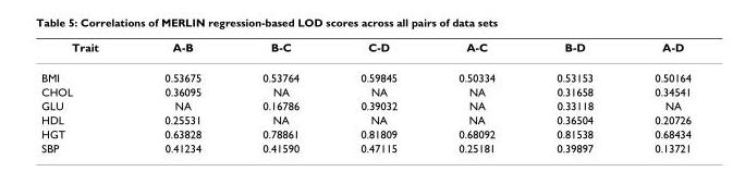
<table><thead><tr><td>Trait</td><td>A-B</td><td>B-C</td><td>C-D</td><td>A-C</td><td>B-D</td><td>A-D</td></tr></thead><tbody><tr><td>BMI</td><td>0.53675</td><td>0.53764</td><td>0.59845</td><td>0.50334</td><td>0.53153</td><td>0.50164</td></tr><tr><td>CHOL</td><td>0.36095</td><td>NA</td><td>NA</td><td>NA</td><td>0.31658</td><td>0.34541</td></tr><tr><td>GLU</td><td>NA</td><td>0.16786</td><td>0.39032</td><td>NA</td><td>0.33118</td><td>NA</td></tr><tr><td>HDL</td><td>0.25531</td><td>NA</td><td>NA</td><td>NA</td><td>0.36504</td><td>0.20726</td></tr><tr><td>HGT</td><td>0.63828</td><td>0.78861</td><td>0.81809</td><td>0.68092</td><td>0.81538</td><td>0.68434</td></tr><tr><td>SBP</td><td>0.41234</td><td>0.41590</td><td>0.47115</td><td>0.25181</td><td>0.39897</td><td>0.13721</td></tr></tbody></table>